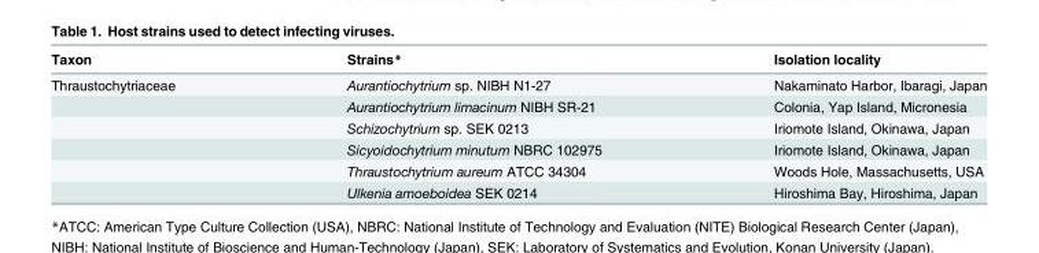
<table><thead><tr><td>Taxon</td><td>Strains*</td><td>Isolation locality</td></tr></thead><tbody><tr><td rowspan="6">Thraustochytriaceae</td><td>Aurantiochytrium sp. NIBH N1-27</td><td>Nakaminato Harbor, Ibaragi, Japan</td></tr><tr><td>Aurantiochytrium limacinum NIBH SR-21</td><td>Colonia, Yap Island, Micronesia</td></tr><tr><td>Schizochytrium sp. SEK 0213</td><td>Iriomote Island, Okinawa, Japan</td></tr><tr><td>Sicyoidochytrium minutum NBRC 102975</td><td>Iriomote Island, Okinawa, Japan</td></tr><tr><td>Thraustochytrium aureum ATCC 34304</td><td>Woods Hole, Massachusetts, USA</td></tr><tr><td>Ulkenia amoeboidea SEK 0214</td><td>Hiroshima Bay, Hiroshima, Japan</td></tr></tbody></table>